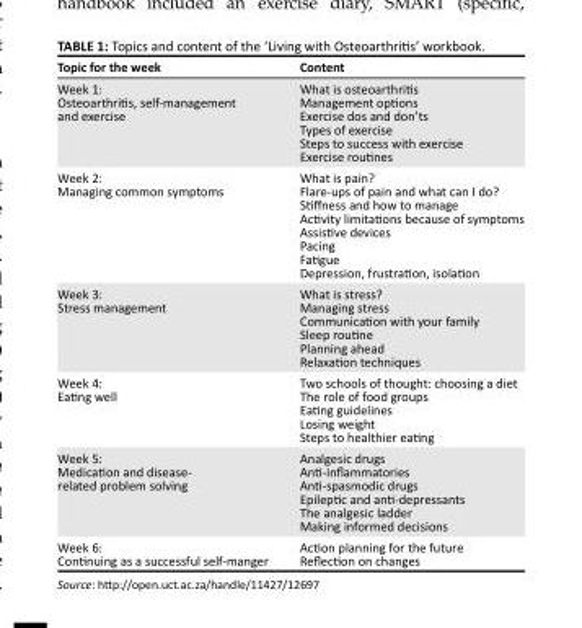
<table><thead><tr><td>Topic for the week</td><td>Content</td></tr></thead><tbody><tr><td>Week 1: Osteoarthritis, self-management and exercise</td><td>What is osteoarthritis Management options Exercise dos and don’ts Types of exercise Steps to success with exercise Exercise routines</td></tr><tr><td>Week 2: Managing common symptoms</td><td>What is pain? Flare-ups of pain and what can I do? Stiffness and how to manage Activity limitations because of symptoms Assistive devices Pacing Fatigue Depression, frustration, isolation</td></tr><tr><td>Week 3: Stress management</td><td>What is stress? Managing stress Communication with your family Sleep routine Planning ahead Relaxation techniques</td></tr><tr><td>Week 4: Eating well</td><td>Two schools of thought: choosing a diet The role of food groups Eating guidelines Losing weight Steps to healthier eating</td></tr><tr><td>Week 5: Medication and disease- related problem solving</td><td>Analgesic drugs Anti-inflammatories Anti-spasmodic drugs Epileptic and anti-depressants The analgesic ladder Making informed decisions</td></tr><tr><td>Week 6: Continuing as a successful self-manger</td><td>Action planning for the future Reflection on changes</td></tr></tbody></table>